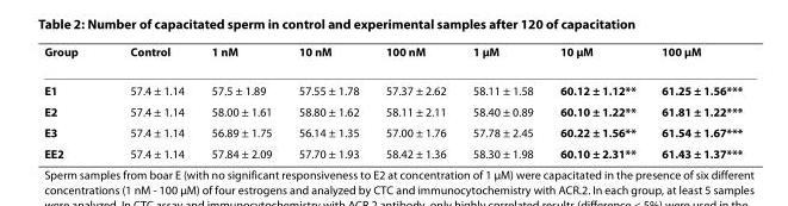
<table><thead><tr><td>Group</td><td>Control</td><td>1 nM</td><td>10 nM</td><td>100 nM</td><td>1 μM</td><td>10 μM</td><td>100 μM</td></tr></thead><tbody><tr><td>E1</td><td>57.4 ± 1.14</td><td>57.5 ± 1.89</td><td>57.55 ± 1.78</td><td>57.37 ± 2.62</td><td>58.11 ± 1.58</td><td>60.12 ± 1.12**</td><td>61.25 ± 1.56***</td></tr><tr><td>E2</td><td>57.4 ± 1.14</td><td>58.00 ± 1.61</td><td>58.80 ± 1.62</td><td>58.11 ± 2.11</td><td>58.40 ± 0.89</td><td>60.10 ± 1.22**</td><td>61.81 ± 1.22***</td></tr><tr><td>E3</td><td>57.4 ± 1.14</td><td>56.89 ± 1.75</td><td>56.14 ± 1.35</td><td>57.00 ± 1.76</td><td>57.78 ± 2.45</td><td>60.22 ± 1.56**</td><td>61.54 ± 1.67***</td></tr><tr><td>EE2</td><td>57.4 ± 1.14</td><td>57.84 ± 2.09</td><td>57.70 ± 1.93</td><td>58.42 ± 1.36</td><td>58.30 ± 1.98</td><td>60.10 ± 2.31**</td><td>61.43 ± 1.37***</td></tr></tbody></table>